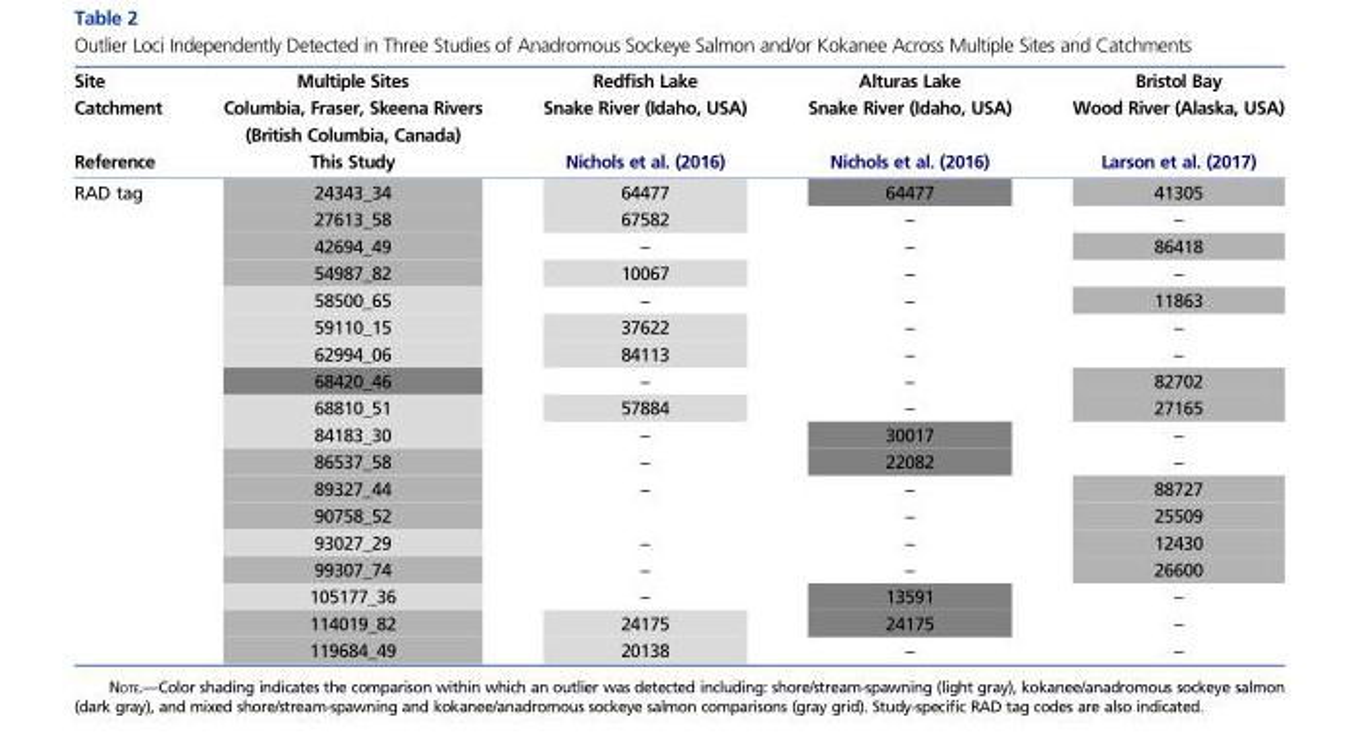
<table><thead><tr><td rowspan="3">Site Catchment Reference</td><td rowspan="3">Multiple Sites Columbia, Fraser, Skeena Rivers (British Columbia, Canada) This Study</td><td rowspan="3">Redfish Lake Snake River (Idaho, USA) Nichols et al. (2016)</td><td rowspan="3">Alturas Lake Snake River (Idaho, USA) Nichols et al. (2016)</td><td rowspan="3">Bristol Bay Wood River (Alaska, USA) Larson et al. (2017)</td></tr><tr></tr><tr></tr></thead><tbody><tr><td rowspan="18">RAD tag</td><td>24343_34</td><td>64477</td><td>64477</td><td>41305</td></tr><tr><td>27613_58</td><td>67582</td><td>–</td><td>–</td></tr><tr><td>42694_49</td><td>–</td><td>–</td><td>86418</td></tr><tr><td>54987_82</td><td>10067</td><td>–</td><td>–</td></tr><tr><td>58500_65</td><td>–</td><td>–</td><td>11863</td></tr><tr><td>59110_15</td><td>37622</td><td>–</td><td>–</td></tr><tr><td>62994_06</td><td>84113</td><td>–</td><td>–</td></tr><tr><td>68420_46</td><td>–</td><td>–</td><td>82702</td></tr><tr><td>68810_51</td><td>57884</td><td>–</td><td>27165</td></tr><tr><td>84183_30</td><td>–</td><td>30017</td><td>–</td></tr><tr><td>86537_58</td><td>–</td><td>22082</td><td>–</td></tr><tr><td>89327_44</td><td>–</td><td>–</td><td>88727</td></tr><tr><td>90758_52</td><td></td><td>–</td><td>25509</td></tr><tr><td>93027_29</td><td>–</td><td>–</td><td>12430</td></tr><tr><td>99307_74</td><td>–</td><td>–</td><td>26600</td></tr><tr><td>105177_36</td><td>–</td><td>13591</td><td>–</td></tr><tr><td>114019_82</td><td>24175</td><td>24175</td><td>–</td></tr><tr><td>119684_49</td><td>20138</td><td>–</td><td>–</td></tr></tbody></table>